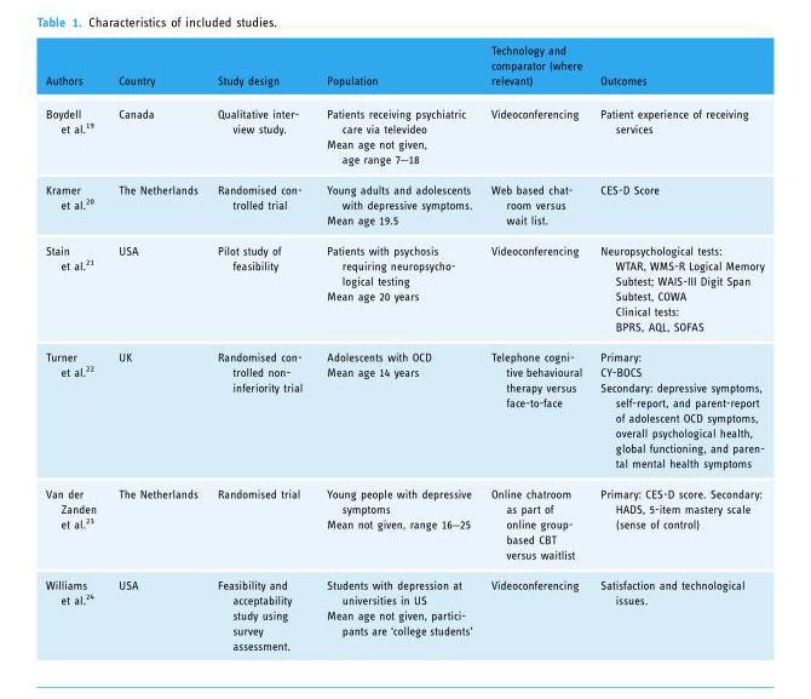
<table><thead><tr><td>Authors</td><td>Country</td><td>Study design</td><td>Population</td><td>Technology and comparator (where relevant)</td><td>Outcomes</td></tr></thead><tbody><tr><td>Boydell et al.<sup>19</sup></td><td>Canada</td><td>Qualitative inter- view study.</td><td>Patients receiving psychiatric care via televideo Mean age not given, age range 7–18</td><td>Videoconferencing</td><td>Patient experience of receiving services</td></tr><tr><td>Kramer et al.<sup>20</sup></td><td>The Netherlands</td><td>Randomised con- trolled trial</td><td>Young adults and adolescents with depressive symptoms. Mean age 19.5</td><td>Web based chat- room versus wait list.</td><td>CES-D Score</td></tr><tr><td>Stain et al.<sup>21</sup></td><td>USA</td><td>Pilot study of feasibility</td><td>Patients with psychosis requiring neuropsycho- logical testing Mean age 20 years</td><td>Videoconferencing</td><td>Neuropsychological tests: WTAR, WMS-R Logical Memory Subtest; WAIS-III Digit Span Subtest, COWA Clinical tests: BPRS, AQL, SOFAS</td></tr><tr><td>Turner et al.<sup>22</sup></td><td>UK</td><td>Randomised con- trolled non- inferiority trial</td><td>Adolescents with OCD Mean age 14 years</td><td>Telephone cogni- tive behavioural therapy versus face-to-face</td><td>Primary: CY-BOCS Secondary: depressive symptoms, self-report, and parent-report of adolescent OCD symptoms, overall psychological health, global functioning, and paren- tal mental health symptoms</td></tr><tr><td>Van der Zanden et al.<sup>23</sup></td><td>The Netherlands</td><td>Randomised trial</td><td>Young people with depressive symptoms Mean not given, range 16–25</td><td>Online chatroom as part of online group- based CBT versus waitlist</td><td>Primary: CES-D score. Secondary: HADS, 5-item mastery scale (sense of control)</td></tr><tr><td>Williams et al.<sup>24</sup></td><td>USA</td><td>Feasibility and acceptability study using survey assessment.</td><td>Students with depression at universities in US Mean age not given, partici- pants are ‘college students’</td><td>Videoconferencing</td><td>Satisfaction and technological issues.</td></tr></tbody></table>